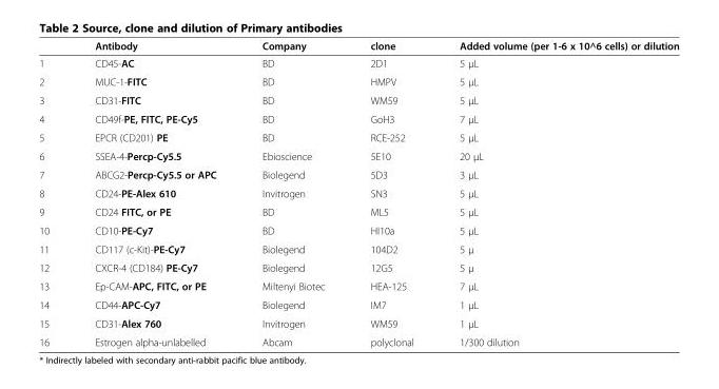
<table><thead><tr><td></td><td>Antibody</td><td>Company</td><td>clone</td><td>Added volume (per 1-6 x 10^6 cells) or dilution</td></tr></thead><tbody><tr><td>1</td><td>CD45-AC</td><td>BD</td><td>2D1</td><td>5 μL</td></tr><tr><td>2</td><td>MUC-1-FITC</td><td>BD</td><td>HMPV</td><td>5 μL</td></tr><tr><td>3</td><td>CD31-FITC</td><td>BD</td><td>WM59</td><td>5 μL</td></tr><tr><td>4</td><td>CD49f-PE, FITC, PE-Cy5</td><td>BD</td><td>GoH3</td><td>7 μL</td></tr><tr><td>5</td><td>EPCR (CD201) PE</td><td>BD</td><td>RCE-252</td><td>5 μL</td></tr><tr><td>6</td><td>SSEA-4-Percp-Cy5.5</td><td>Ebioscience</td><td>5E10</td><td>20 μL</td></tr><tr><td>7</td><td>ABCG2-Percp-Cy5.5 or APC</td><td>Biolegend</td><td>5D3</td><td>3 μL</td></tr><tr><td>8</td><td>CD24-PE-Alex 610</td><td>Invitrogen</td><td>SN3</td><td>5 μL</td></tr><tr><td>9</td><td>CD24 FITC, or PE</td><td>BD</td><td>ML5</td><td>5 μL</td></tr><tr><td>10</td><td>CD10-PE-Cy7</td><td>BD</td><td>HI10a</td><td>5 μL</td></tr><tr><td>11</td><td>CD117 (c-Kit)-PE-Cy7</td><td>Biolegend</td><td>104D2</td><td>5 μ</td></tr><tr><td>12</td><td>CXCR-4 (CD184) PE-Cy7</td><td>Biolegend</td><td>12G5</td><td>5 μ</td></tr><tr><td>13</td><td>Ep-CAM-APC, FITC, or PE</td><td>Miltenyi Biotec</td><td>HEA-125</td><td>7 μL</td></tr><tr><td>14</td><td>CD44-APC-Cy7</td><td>Biolegend</td><td>IM7</td><td>1 μL</td></tr><tr><td>15</td><td>CD31-Alex 760</td><td>Invitrogen</td><td>WM59</td><td>1 μL</td></tr><tr><td>16</td><td>Estrogen alpha-unlabelled</td><td>Abcam</td><td>polyclonal</td><td>1/300 dilution</td></tr></tbody></table>